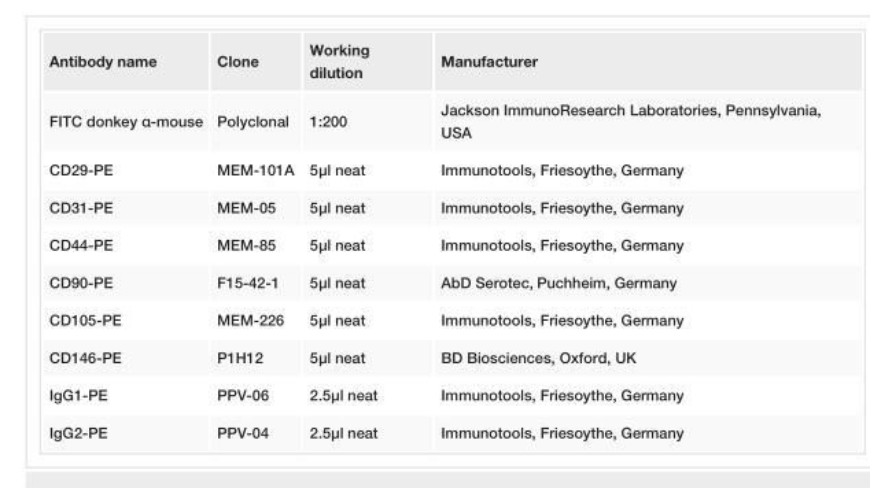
<table><tbody><tr><td>Antibody name</td><td>Clone</td><td>Working dilution</td><td>Manufacturer</td></tr><tr><td>FITC donkey α-mouse</td><td>Polyclonal</td><td>1:200</td><td>Jackson ImmunoResearch Laboratories, Pennsylvania, USA</td></tr><tr><td>CD29-PE</td><td>MEM-101A</td><td>5μl neat</td><td>Immunotools, Friesoythe, Germany</td></tr><tr><td>CD31-PE</td><td>MEM-05</td><td>5μl neat</td><td>Immunotools, Friesoythe, Germany</td></tr><tr><td>CD44-PE</td><td>MEM-85</td><td>5μl neat</td><td>Immunotools, Friesoythe, Germany</td></tr><tr><td>CD90-PE</td><td>F15-42-1</td><td>5μl neat</td><td>AbD Serotec, Puchheim, Germany</td></tr><tr><td>CD105-PE</td><td>MEM-226</td><td>5μl neat</td><td>Immunotools, Friesoythe, Germany</td></tr><tr><td>CD146-PE</td><td>P1H12</td><td>5μl neat</td><td>BD Biosciences, Oxford, UK</td></tr><tr><td>IgG1-PE</td><td>PPV-06</td><td>2.5μl neat</td><td>Immunotools, Friesoythe, Germany</td></tr><tr><td>IgG2-PE</td><td>PPV-04</td><td>2.5μl neat</td><td>Immunotools, Friesoythe, Germany</td></tr></tbody></table>